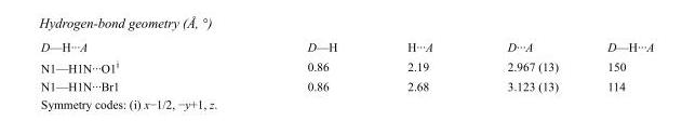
<table><tbody><tr><td>D—H···A</td><td>D—H</td><td>H···A</td><td>D···A</td><td>D—H···A</td></tr><tr><td>N1—H1N···O1<sup>i</sup></td><td>0.86</td><td>2.19</td><td>2.967 (13)</td><td>150</td></tr><tr><td>N1—H1N···Br1</td><td>0.86</td><td>2.68</td><td>3.123 (13)</td><td>114</td></tr></tbody></table>